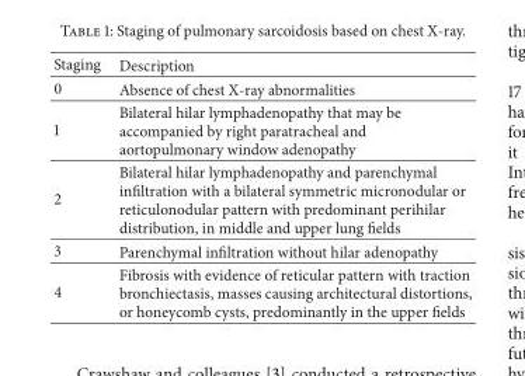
<table><thead><tr><td>Staging</td><td>Description</td></tr></thead><tbody><tr><td>0</td><td>Absence of chest X-ray abnormalities</td></tr><tr><td>1</td><td>Bilateral hilar lymphadenopathy that may be accompanied by right paratracheal and aortopulmonary window adenopathy</td></tr><tr><td>2</td><td>Bilateral hilar lymphadenopathy and parenchymal infiltration with a bilateral symmetric micronodular or reticulonodular pattern with predominant perihilar distribution, in middle and upper lung fields</td></tr><tr><td>3</td><td>Parenchymal infiltration without hilar adenopathy</td></tr><tr><td>4</td><td>Fibrosis with evidence of reticular pattern with traction bronchiectasis, masses causing architectural distortions, or honeycomb cysts, predominantly in the upper fields</td></tr></tbody></table>